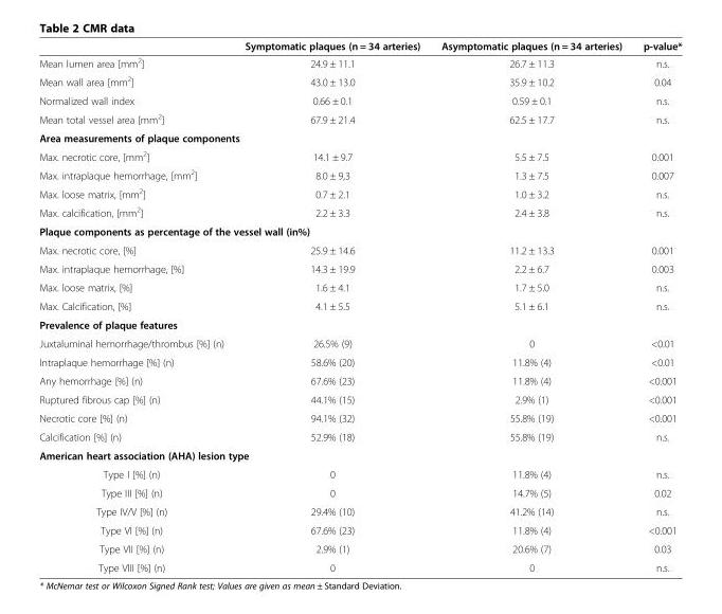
<table><thead><tr><td></td><td>Symptomatic plaques (n = 34 arteries)</td><td>Asymptomatic plaques (n = 34 arteries)</td><td>p-value*</td></tr></thead><tbody><tr><td>Mean lumen area [mm<sup>2</sup>]</td><td>24.9 ± 11.1</td><td>26.7 ± 11.3</td><td>n.s.</td></tr><tr><td>Mean wall area [mm<sup>2</sup>]</td><td>43.0 ± 13.0</td><td>35.9 ± 10.2</td><td>0.04</td></tr><tr><td>Normalized wall index</td><td>0.66 ± 0.1</td><td>0.59 ± 0.1</td><td>n.s.</td></tr><tr><td>Mean total vessel area [mm<sup>2</sup>]</td><td>67.9 ± 21.4</td><td>62.5 ± 17.7</td><td>n.s.</td></tr><tr><td colspan="4">Area measurements of plaque components</td></tr><tr><td>Max. necrotic core, [mm<sup>2</sup>]</td><td>14.1 ± 9.7</td><td>5.5 ± 7.5</td><td>0.001</td></tr><tr><td>Max. intraplaque hemorrhage, [mm<sup>2</sup>]</td><td>8.0 ± 9,3</td><td>1.3 ± 7.5</td><td>0.007</td></tr><tr><td>Max. loose matrix, [mm<sup>2</sup>]</td><td>0.7 ± 2.1</td><td>1.0 ± 3.2</td><td>n.s.</td></tr><tr><td>Max. calcification, [mm<sup>2</sup>]</td><td>2.2 ± 3.3</td><td>2.4 ± 3.8</td><td>n.s.</td></tr><tr><td colspan="4">Plaque components as percentage of the vessel wall (in%)</td></tr><tr><td>Max. necrotic core, [%]</td><td>25.9 ± 14.6</td><td>11.2 ± 13.3</td><td>0.001</td></tr><tr><td>Max. intraplaque hemorrhage, [%]</td><td>14.3 ± 19.9</td><td>2.2 ± 6.7</td><td>0.003</td></tr><tr><td>Max. loose matrix, [%]</td><td>1.6 ± 4.1</td><td>1.7 ± 5.0</td><td>n.s.</td></tr><tr><td>Max. Calcification, [%]</td><td>4.1 ± 5.5</td><td>5.1 ± 6.1</td><td>n.s.</td></tr><tr><td colspan="4">Prevalence of plaque features</td></tr><tr><td>Juxtaluminal hemorrhage/thrombus [%] (n)</td><td>26.5% (9)</td><td>0</td><td>&lt;0.01</td></tr><tr><td>Intraplaque hemorrhage [%] (n)</td><td>58.6% (20)</td><td>11.8% (4)</td><td>&lt;0.01</td></tr><tr><td>Any hemorrhage [%] (n)</td><td>67.6% (23)</td><td>11.8% (4)</td><td>&lt;0.001</td></tr><tr><td>Ruptured fibrous cap [%] (n)</td><td>44.1% (15)</td><td>2.9% (1)</td><td>&lt;0.001</td></tr><tr><td>Necrotic core [%] (n)</td><td>94.1% (32)</td><td>55.8% (19)</td><td>&lt;0.001</td></tr><tr><td>Calcification [%] (n)</td><td>52.9% (18)</td><td>55.8% (19)</td><td>n.s.</td></tr><tr><td colspan="4">American heart association (AHA) lesion type</td></tr><tr><td>Type I [%] (n)</td><td>0</td><td>11.8% (4)</td><td>n.s.</td></tr><tr><td>Type III [%] (n)</td><td>0</td><td>14.7% (5)</td><td>0.02</td></tr><tr><td>Type IV/V [%] (n)</td><td>29.4% (10)</td><td>41.2% (14)</td><td>n.s.</td></tr><tr><td>Type VI [%] (n)</td><td>67.6% (23)</td><td>11.8% (4)</td><td>&lt;0.001</td></tr><tr><td>Type VII [%] (n)</td><td>2.9% (1)</td><td>20.6% (7)</td><td>0.03</td></tr><tr><td>Type VIII [%] (n)</td><td>0</td><td>0</td><td>n.s.</td></tr></tbody></table>